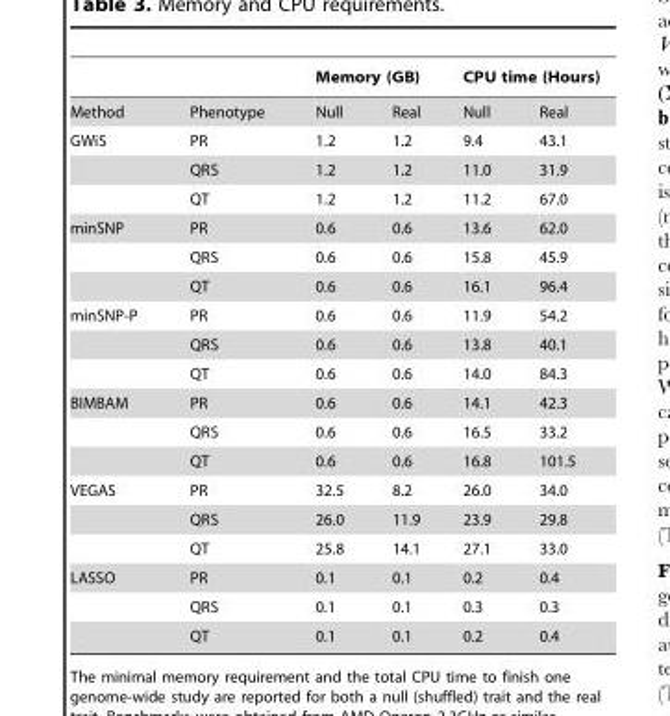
<table><thead><tr><td rowspan="2">Method</td><td rowspan="2">Phenotype</td><td colspan="2">Memory (GB)</td><td colspan="2">CPU time (Hours)</td></tr><tr><td>Null</td><td>Real</td><td>Null</td><td>Real</td></tr></thead><tbody><tr><td rowspan="3">GWiS</td><td>PR</td><td>1.2</td><td>1.2</td><td>9.4</td><td>43.1</td></tr><tr><td>QRS</td><td>1.2</td><td>1.2</td><td>11.0</td><td>31.9</td></tr><tr><td>QT</td><td>1.2</td><td>1.2</td><td>11.2</td><td>67.0</td></tr><tr><td rowspan="3">minSNP</td><td>PR</td><td>0.6</td><td>0.6</td><td>13.6</td><td>62.0</td></tr><tr><td>QRS</td><td>0.6</td><td>0.6</td><td>15.8</td><td>45.9</td></tr><tr><td>QT</td><td>0.6</td><td>0.6</td><td>16.1</td><td>96.4</td></tr><tr><td rowspan="3">minSNP-P</td><td>PR</td><td>0.6</td><td>0.6</td><td>11.9</td><td>54.2</td></tr><tr><td>QRS</td><td>0.6</td><td>0.6</td><td>13.8</td><td>40.1</td></tr><tr><td>QT</td><td>0.6</td><td>0.6</td><td>14.0</td><td>84.3</td></tr><tr><td rowspan="3">BIMBAM</td><td>PR</td><td>0.6</td><td>0.6</td><td>14.1</td><td>42.3</td></tr><tr><td>QRS</td><td>0.6</td><td>0.6</td><td>16.5</td><td>33.2</td></tr><tr><td>QT</td><td>0.6</td><td>0.6</td><td>16.8</td><td>101.5</td></tr><tr><td rowspan="3">VEGAS</td><td>PR</td><td>32.5</td><td>8.2</td><td>26.0</td><td>34.0</td></tr><tr><td>QRS</td><td>26.0</td><td>11.9</td><td>23.9</td><td>29.8</td></tr><tr><td>QT</td><td>25.8</td><td>14.1</td><td>27.1</td><td>33.0</td></tr><tr><td rowspan="3">LASSO</td><td>PR</td><td>0.1</td><td>0.1</td><td>0.2</td><td>0.4</td></tr><tr><td>QRS</td><td>0.1</td><td>0.1</td><td>0.3</td><td>0.3</td></tr><tr><td>QT</td><td>0.1</td><td>0.1</td><td>0.2</td><td>0.4</td></tr></tbody></table>